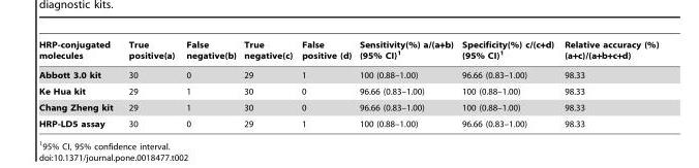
<table><thead><tr><td>HRP-conjugated molecules</td><td>True positive(a)</td><td>False negative(b)</td><td>True negative(c)</td><td>False positive (d)</td><td>Sensitivity(%) a/(a+b) (95% CI)<sup>1</sup></td><td>Specificity(%) c/(c+d) (95% CI)<sup>1</sup></td><td>Relative accuracy (%) (a+c)/(a+b+c+d)</td></tr></thead><tbody><tr><td>Abbott 3.0 kit</td><td>30</td><td>0</td><td>29</td><td>1</td><td>100 (0.88–1.00)</td><td>96.66 (0.83–1.00)</td><td>98.33</td></tr><tr><td>Ke Hua kit</td><td>29</td><td>1</td><td>30</td><td>0</td><td>96.66 (0.83–1.00)</td><td>100 (0.88–1.00)</td><td>98.33</td></tr><tr><td>Chang Zheng kit</td><td>29</td><td>1</td><td>30</td><td>0</td><td>96.66 (0.83–1.00)</td><td>100 (0.88–1.00)</td><td>98.33</td></tr><tr><td>HRP-LD5 assay</td><td>30</td><td>0</td><td>29</td><td>1</td><td>100 (0.88–1.00)</td><td>96.66 (0.83–1.00)</td><td>98.33</td></tr></tbody></table>